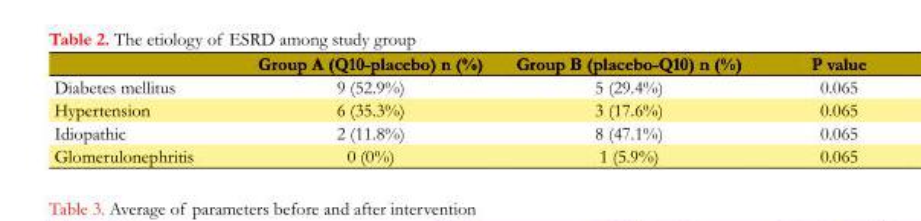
<table><thead><tr><td></td><td>Group A (Q10-placebo) n (%)</td><td>Group B (placebo-Q10) n (%)</td><td>P value</td></tr></thead><tbody><tr><td>Diabetes mellitus</td><td>9 (52.9%)</td><td>5 (29.4%)</td><td>0.065</td></tr><tr><td>Hypertension</td><td>6 (35.3%)</td><td>3 (17.6%)</td><td>0.065</td></tr><tr><td>Idiopathic</td><td>2 (11.8%)</td><td>8 (47.1%)</td><td>0.065</td></tr><tr><td>Glomerulonephritis</td><td>0 (0%)</td><td>1 (5.9%)</td><td>0.065</td></tr></tbody></table>